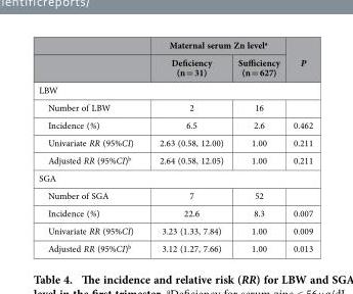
<table><thead><tr><td rowspan="2"></td><td colspan="2">Maternal serum Zn level<sup>a</sup></td><td rowspan="2">P</td></tr><tr><td>Deficiency (n = 31)</td><td>Sufficiency (n = 627)</td></tr></thead><tbody><tr><td colspan="4">LBW</td></tr><tr><td>Number of LBW</td><td>2</td><td>16</td><td></td></tr><tr><td>Incidence (%)</td><td>6.5</td><td>2.6</td><td>0.462</td></tr><tr><td>Univariate RR (95%CI)</td><td>2.63 (0.58, 12.00)</td><td>1.00</td><td>0.211</td></tr><tr><td>Adjusted RR (95%CI)<sup>b</sup></td><td>2.64 (0.58, 12.05)</td><td>1.00</td><td>0.211</td></tr><tr><td colspan="4">SGA</td></tr><tr><td>Number of SGA</td><td>7</td><td>52</td><td></td></tr><tr><td>Incidence (%)</td><td>22.6</td><td>8.3</td><td>0.007</td></tr><tr><td>Univariate RR (95%CI)</td><td>3.23 (1.33, 7.84)</td><td>1.00</td><td>0.009</td></tr><tr><td>Adjusted RR (95%CI)<sup>b</sup></td><td>3.12 (1.27, 7.66)</td><td>1.00</td><td>0.013</td></tr></tbody></table>